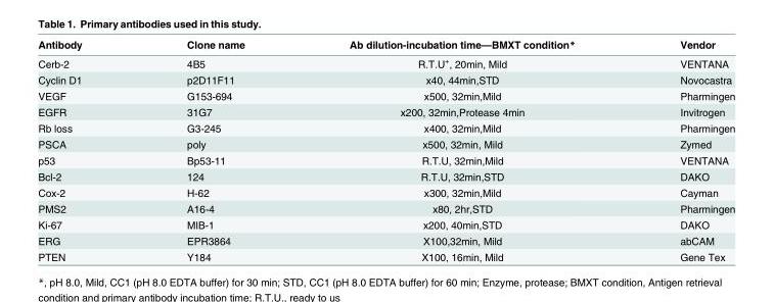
<table><thead><tr><td>Antibody</td><td>Clone name</td><td>Ab dilution-incubation time—BMXT condition*</td><td>Vendor</td></tr></thead><tbody><tr><td>Cerb-2</td><td>4B5</td><td>R.T.U<sup>+</sup>, 20min, Mild</td><td>VENTANA</td></tr><tr><td>Cyclin D1</td><td>p2D11F11</td><td>x40, 44min,STD</td><td>Novocastra</td></tr><tr><td>VEGF</td><td>G153-694</td><td>x500, 32min,Mild</td><td>Pharmingen</td></tr><tr><td>EGFR</td><td>31G7</td><td>x200, 32min,Protease 4min</td><td>Invitrogen</td></tr><tr><td>Rb loss</td><td>G3-245</td><td>x400, 32min,Mild</td><td>Pharmingen</td></tr><tr><td>PSCA</td><td>poly</td><td>x500, 32min, Mild</td><td>Zymed</td></tr><tr><td>p53</td><td>Bp53-11</td><td>R.T.U, 32min,Mild</td><td>VENTANA</td></tr><tr><td>Bcl-2</td><td>124</td><td>R.T.U, 32min,STD</td><td>DAKO</td></tr><tr><td>Cox-2</td><td>H-62</td><td>x300, 32min,Mild</td><td>Cayman</td></tr><tr><td>PMS2</td><td>A16-4</td><td>x80, 2hr,STD</td><td>Pharmingen</td></tr><tr><td>Ki-67</td><td>MIB-1</td><td>x200, 40min,STD</td><td>DAKO</td></tr><tr><td>ERG</td><td>EPR3864</td><td>X100,32min, Mild</td><td>abCAM</td></tr><tr><td>PTEN</td><td>Y184</td><td>X100, 16min, Mild</td><td>Gene Tex</td></tr></tbody></table>